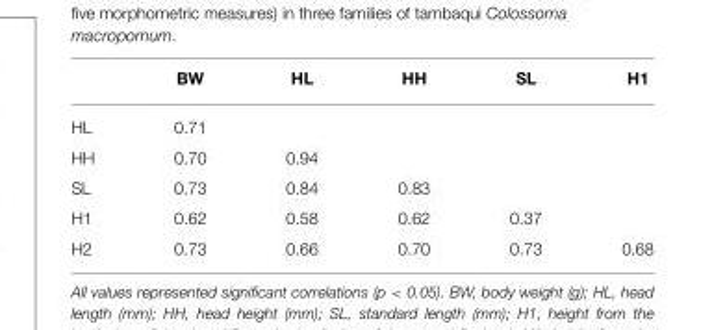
<table><thead><tr><td></td><td>BW</td><td>HL</td><td>HH</td><td>SL</td><td>H1</td></tr></thead><tbody><tr><td>HL</td><td>0.71</td><td></td><td></td><td></td><td></td></tr><tr><td>HH</td><td>0.70</td><td>0.94</td><td></td><td></td><td></td></tr><tr><td>SL</td><td>0.73</td><td>0.84</td><td>0.83</td><td></td><td></td></tr><tr><td>H1</td><td>0.62</td><td>0.58</td><td>0.62</td><td>0.37</td><td></td></tr><tr><td>H2</td><td>0.73</td><td>0.66</td><td>0.70</td><td>0.73</td><td>0.68</td></tr></tbody></table>